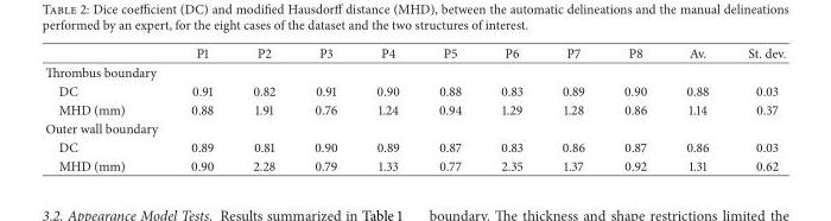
<table><thead><tr><td></td><td>P1</td><td>P2</td><td>P3</td><td>P4</td><td>P5</td><td>P6</td><td>P7</td><td>P8</td><td>Av.</td><td>St. dev.</td></tr></thead><tbody><tr><td colspan="11">Thrombus boundary</td></tr><tr><td>DC</td><td>0.91</td><td>0.82</td><td>0.91</td><td>0.90</td><td>0.88</td><td>0.83</td><td>0.89</td><td>0.90</td><td>0.88</td><td>0.03</td></tr><tr><td>MHD (mm)</td><td>0.88</td><td>1.91</td><td>0.76</td><td>1.24</td><td>0.94</td><td>1.29</td><td>1.28</td><td>0.86</td><td>1.14</td><td>0.37</td></tr><tr><td colspan="11">Outer wall boundary</td></tr><tr><td>DC</td><td>0.89</td><td>0.81</td><td>0.90</td><td>0.89</td><td>0.87</td><td>0.83</td><td>0.86</td><td>0.87</td><td>0.86</td><td>0.03</td></tr><tr><td>MHD (mm)</td><td>0.90</td><td>2.28</td><td>0.79</td><td>1.33</td><td>0.77</td><td>2.35</td><td>1.37</td><td>0.92</td><td>1.31</td><td>0.62</td></tr></tbody></table>